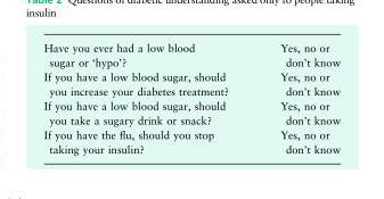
<table><tbody><tr><td>Have you ever had a low blood sugar or ‘hypo’?</td><td>Yes, no or don’t know</td></tr><tr><td>If you have a low blood sugar, should you increase your diabetes treatment?</td><td>Yes, no or don’t know</td></tr><tr><td>If you have a low blood sugar, should you take a sugary drink or snack?</td><td>Yes, no or don’t know</td></tr><tr><td>If you have the flu, should you stop taking your insulin?</td><td>Yes, no or don’t know</td></tr></tbody></table>